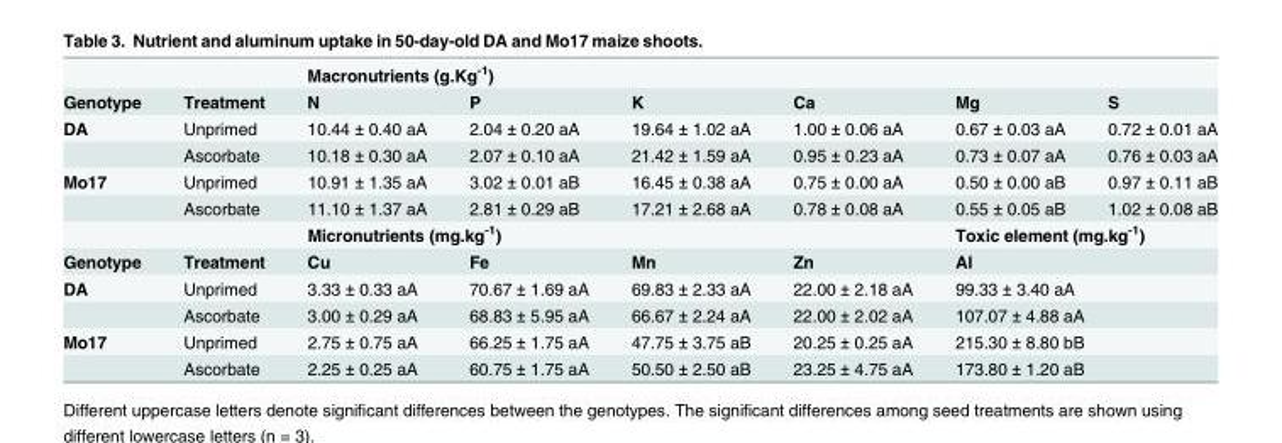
<table><thead><tr><td rowspan="2">Genotype</td><td rowspan="2">Treatment</td><td colspan="6">Macronutrients (g.Kg<sup>-1</sup>)</td></tr><tr><td>N</td><td>P</td><td>K</td><td>Ca</td><td>Mg</td><td>S</td></tr></thead><tbody><tr><td rowspan="2">DA</td><td>Unprimed</td><td>10.44 ± 0.40 aA</td><td>2.04 ± 0.20 aA</td><td>19.64 ± 1.02 aA</td><td>1.00 ± 0.06 aA</td><td>0.67 ± 0.03 aA</td><td>0.72 ± 0.01 aA</td></tr><tr><td>Ascorbate</td><td>10.18 ± 0.30 aA</td><td>2.07 ± 0.10 aA</td><td>21.42 ± 1.59 aA</td><td>0.95 ± 0.23 aA</td><td>0.73 ± 0.07 aA</td><td>0.76 ± 0.03 aA</td></tr><tr><td rowspan="3">Mo17</td><td>Unprimed</td><td>10.91 ± 1.35 aA</td><td>3.02 ± 0.01 aB</td><td>16.45 ± 0.38 aA</td><td>0.75 ± 0.00 aA</td><td>0.50 ± 0.00 aB</td><td>0.97 ± 0.11 aB</td></tr><tr><td>Ascorbate</td><td>11.10 ± 1.37 aA</td><td>2.81 ± 0.29 aB</td><td>17.21 ± 2.68 aA</td><td>0.78 ± 0.08 aA</td><td>0.55 ± 0.05 aB</td><td>1.02 ± 0.08 aB</td></tr><tr><td></td><td colspan="4">Micronutrients (mg.kg<sup>-1</sup>)</td><td colspan="2">Toxic element (mg.kg<sup>-1</sup>)</td></tr><tr><td>Genotype</td><td>Treatment</td><td>Cu</td><td>Fe</td><td>Mn</td><td>Zn</td><td colspan="2">Al</td></tr><tr><td rowspan="2">DA</td><td>Unprimed</td><td>3.33 ± 0.33 aA</td><td>70.67 ± 1.69 aA</td><td>69.83 ± 2.33 aA</td><td>22.00 ± 2.18 aA</td><td colspan="2">99.33 ± 3.40 aA</td></tr><tr><td>Ascorbate</td><td>3.00 ± 0.29 aA</td><td>68.83 ± 5.95 aA</td><td>66.67 ± 2.24 aA</td><td>22.00 ± 2.02 aA</td><td colspan="2">107.07 ± 4.88 aA</td></tr><tr><td rowspan="2">Mo17</td><td>Unprimed</td><td>2.75 ± 0.75 aA</td><td>66.25 ± 1.75 aA</td><td>47.75 ± 3.75 aB</td><td>20.25 ± 0.25 aA</td><td colspan="2">215.30 ± 8.80 bB</td></tr><tr><td>Ascorbate</td><td>2.25 ± 0.25 aA</td><td>60.75 ± 1.75 aA</td><td>50.50 ± 2.50 aB</td><td>23.25 ± 4.75 aA</td><td colspan="2">173.80 ± 1.20 aB</td></tr></tbody></table>